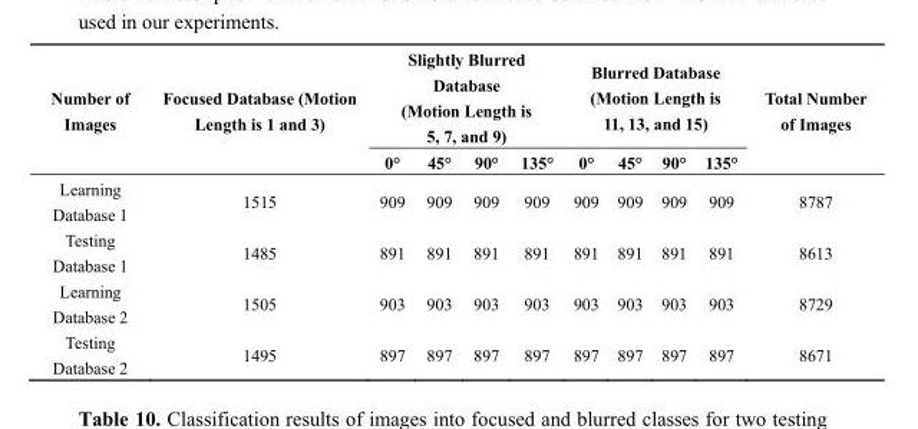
<table><thead><tr><td rowspan="2">Number of Images</td><td rowspan="2">Focused Database (Motion Length is 1 and 3)</td><td colspan="4">Slightly Blurred Database (Motion Length is 5, 7, and 9)</td><td colspan="4">Blurred Database (Motion Length is 11, 13, and 15)</td><td rowspan="2">Total Number of Images</td></tr><tr><td>0°</td><td>45°</td><td>90°</td><td>135°</td><td>0°</td><td>45°</td><td>90°</td><td>135°</td></tr></thead><tbody><tr><td>Learning Database 1</td><td>1515</td><td>909</td><td>909</td><td>909</td><td>909</td><td>909</td><td>909</td><td>909</td><td>909</td><td>8787</td></tr><tr><td>Testing Database 1</td><td>1485</td><td>891</td><td>891</td><td>891</td><td>891</td><td>891</td><td>891</td><td>891</td><td>891</td><td>8613</td></tr><tr><td>Learning Database 2</td><td>1505</td><td>903</td><td>903</td><td>903</td><td>903</td><td>903</td><td>903</td><td>903</td><td>903</td><td>8729</td></tr><tr><td>Testing Database 2</td><td>1495</td><td>897</td><td>897</td><td>897</td><td>897</td><td>897</td><td>897</td><td>897</td><td>897</td><td>8671</td></tr></tbody></table>